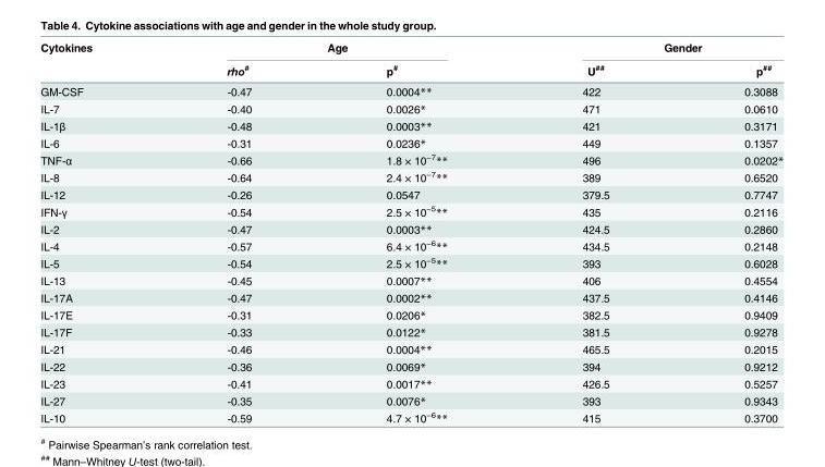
<table><thead><tr><td rowspan="2">Cytokines</td><td colspan="2">Age</td><td colspan="2">Gender</td></tr><tr><td>rho<sup>#</sup></td><td>p<sup>#</sup></td><td>U<sup>##</sup></td><td>p<sup>##</sup></td></tr></thead><tbody><tr><td>GM-CSF</td><td>-0.47</td><td>0.0004**</td><td>422</td><td>0.3088</td></tr><tr><td>IL-7</td><td>-0.40</td><td>0.0026*</td><td>471</td><td>0.0610</td></tr><tr><td>IL-1β</td><td>-0.48</td><td>0.0003**</td><td>421</td><td>0.3171</td></tr><tr><td>IL-6</td><td>-0.31</td><td>0.0236*</td><td>449</td><td>0.1357</td></tr><tr><td>TNF-α</td><td>-0.66</td><td>1.8 × 10<sup>−7</sup>**</td><td>496</td><td>0.0202*</td></tr><tr><td>IL-8</td><td>-0.64</td><td>2.4 × 10<sup>−7</sup>**</td><td>389</td><td>0.6520</td></tr><tr><td>IL-12</td><td>-0.26</td><td>0.0547</td><td>379.5</td><td>0.7747</td></tr><tr><td>IFN-γ</td><td>-0.54</td><td>2.5 × 10<sup>−5</sup>**</td><td>435</td><td>0.2116</td></tr><tr><td>IL-2</td><td>-0.47</td><td>0.0003**</td><td>424.5</td><td>0.2860</td></tr><tr><td>IL-4</td><td>-0.57</td><td>6.4 × 10<sup>−6</sup>**</td><td>434.5</td><td>0.2148</td></tr><tr><td>IL-5</td><td>-0.54</td><td>2.5 × 10<sup>−5</sup>**</td><td>393</td><td>0.6028</td></tr><tr><td>IL-13</td><td>-0.45</td><td>0.0007**</td><td>406</td><td>0.4554</td></tr><tr><td>IL-17A</td><td>-0.47</td><td>0.0002**</td><td>437.5</td><td>0.4146</td></tr><tr><td>IL-17E</td><td>-0.31</td><td>0.0206*</td><td>382.5</td><td>0.9409</td></tr><tr><td>IL-17F</td><td>-0.33</td><td>0.0122*</td><td>381.5</td><td>0.9278</td></tr><tr><td>IL-21</td><td>-0.46</td><td>0.0004**</td><td>465.5</td><td>0.2015</td></tr><tr><td>IL-22</td><td>-0.36</td><td>0.0069*</td><td>394</td><td>0.9212</td></tr><tr><td>IL-23</td><td>-0.41</td><td>0.0017**</td><td>426.5</td><td>0.5257</td></tr><tr><td>IL-27</td><td>-0.35</td><td>0.0076*</td><td>393</td><td>0.9343</td></tr><tr><td>IL-10</td><td>-0.59</td><td>4.7 × 10<sup>−6</sup>**</td><td>415</td><td>0.3700</td></tr></tbody></table>